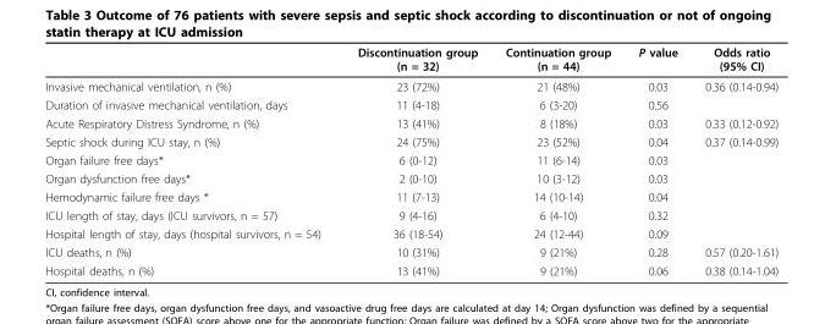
<table><thead><tr><td></td><td>Discontinuation group (n = 32)</td><td>Continuation group (n = 44)</td><td>P value</td><td>Odds ratio (95% CI)</td></tr></thead><tbody><tr><td>Invasive mechanical ventilation, n (%)</td><td>23 (72%)</td><td>21 (48%)</td><td>0.03</td><td>0.36 (0.14-0.94)</td></tr><tr><td>Duration of invasive mechanical ventilation, days</td><td>11 (4-18)</td><td>6 (3-20)</td><td>0.56</td><td></td></tr><tr><td>Acute Respiratory Distress Syndrome, n (%)</td><td>13 (41%)</td><td>8 (18%)</td><td>0.03</td><td>0.33 (0.12-0.92)</td></tr><tr><td>Septic shock during ICU stay, n (%)</td><td>24 (75%)</td><td>23 (52%)</td><td>0.04</td><td>0.37 (0.14-0.99)</td></tr><tr><td>Organ failure free days*</td><td>6 (0-12)</td><td>11 (6-14)</td><td>0.03</td><td></td></tr><tr><td>Organ dysfunction free days*</td><td>2 (0-10)</td><td>10 (3-12)</td><td>0.03</td><td></td></tr><tr><td>Hemodynamic failure free days *</td><td>11 (7-13)</td><td>14 (10-14)</td><td>0.04</td><td></td></tr><tr><td>ICU length of stay, days (ICU survivors, n = 57)</td><td>9 (4-16)</td><td>6 (4-10)</td><td>0.32</td><td></td></tr><tr><td>Hospital length of stay, days (hospital survivors, n = 54)</td><td>36 (18-54)</td><td>24 (12-44)</td><td>0.09</td><td></td></tr><tr><td>ICU deaths, n (%)</td><td>10 (31%)</td><td>9 (21%)</td><td>0.28</td><td>0.57 (0.20-1.61)</td></tr><tr><td>Hospital deaths, n (%)</td><td>13 (41%)</td><td>9 (21%)</td><td>0.06</td><td>0.38 (0.14-1.04)</td></tr></tbody></table>